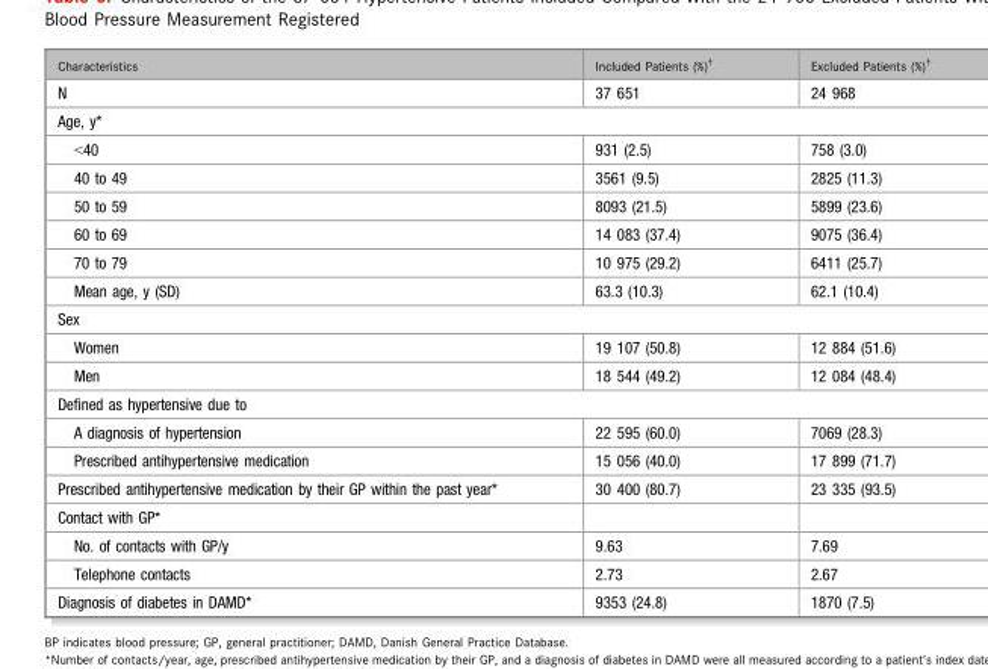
<table><thead><tr><td>Characteristics</td><td>Included Patients (%)†</td><td>Excluded Patients (%)†</td></tr></thead><tbody><tr><td>N</td><td>37 651</td><td>24 968</td></tr><tr><td colspan="3">Age, y*</td></tr><tr><td>&lt;40</td><td>931 (2.5)</td><td>758 (3.0)</td></tr><tr><td>40 to 49</td><td>3561 (9.5)</td><td>2825 (11.3)</td></tr><tr><td>50 to 59</td><td>8093 (21.5)</td><td>5899 (23.6)</td></tr><tr><td>60 to 69</td><td>14 083 (37.4)</td><td>9075 (36.4)</td></tr><tr><td>70 to 79</td><td>10 975 (29.2)</td><td>6411 (25.7)</td></tr><tr><td>Mean age, y (SD)</td><td>63.3 (10.3)</td><td>62.1 (10.4)</td></tr><tr><td colspan="3">Sex</td></tr><tr><td>Women</td><td>19 107 (50.8)</td><td>12 884 (51.6)</td></tr><tr><td>Men</td><td>18 544 (49.2)</td><td>12 084 (48.4)</td></tr><tr><td colspan="3">Defined as hypertensive due to</td></tr><tr><td>A diagnosis of hypertension</td><td>22 595 (60.0)</td><td>7069 (28.3)</td></tr><tr><td>Prescribed antihypertensive medication</td><td>15 056 (40.0)</td><td>17 899 (71.7)</td></tr><tr><td>Prescribed antihypertensive medication by their GP within the past year*</td><td>30 400 (80.7)</td><td>23 335 (93.5)</td></tr><tr><td colspan="3">Contact with GP*</td></tr><tr><td>No. of contacts with GP/y</td><td>9.63</td><td>7.69</td></tr><tr><td>Telephone contacts</td><td>2.73</td><td>2.67</td></tr><tr><td>Diagnosis of diabetes in DAMD*</td><td>9353 (24.8)</td><td>1870 (7.5)</td></tr></tbody></table>